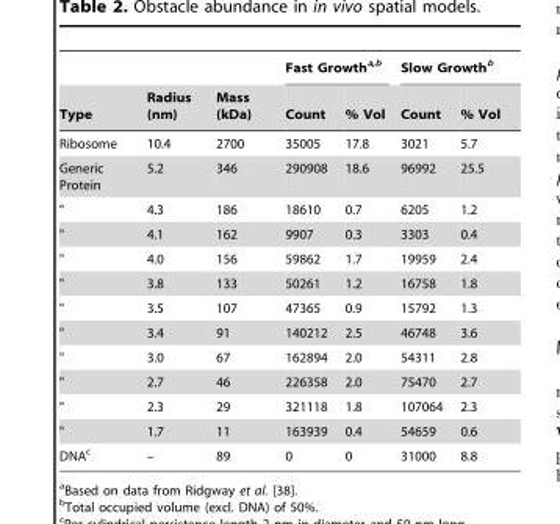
<table><thead><tr><td rowspan="2">Type</td><td rowspan="2">Radius (nm)</td><td rowspan="2">Mass (kDa)</td><td colspan="2">Fast Growth<sup>a,b</sup></td><td colspan="2">Slow Growth<sup>b</sup></td></tr><tr><td>Count</td><td>% Vol</td><td>Count</td><td>% Vol</td></tr></thead><tbody><tr><td>Ribosome</td><td>10.4</td><td>2700</td><td>35005</td><td>17.8</td><td>3021</td><td>5.7</td></tr><tr><td>Generic Protein</td><td>5.2</td><td>346</td><td>290908</td><td>18.6</td><td>96992</td><td>25.5</td></tr><tr><td>&quot;</td><td>4.3</td><td>186</td><td>18610</td><td>0.7</td><td>6205</td><td>1.2</td></tr><tr><td>&quot;</td><td>4.1</td><td>162</td><td>9907</td><td>0.3</td><td>3303</td><td>0.4</td></tr><tr><td>&quot;</td><td>4.0</td><td>156</td><td>59862</td><td>1.7</td><td>19959</td><td>2.4</td></tr><tr><td>&quot;</td><td>3.8</td><td>133</td><td>50261</td><td>1.2</td><td>16758</td><td>1.8</td></tr><tr><td>&quot;</td><td>3.5</td><td>107</td><td>47365</td><td>0.9</td><td>15792</td><td>1.3</td></tr><tr><td>&quot;</td><td>3.4</td><td>91</td><td>140212</td><td>2.5</td><td>46748</td><td>3.6</td></tr><tr><td>&quot;</td><td>3.0</td><td>67</td><td>162894</td><td>2.0</td><td>54311</td><td>2.8</td></tr><tr><td>&quot;</td><td>2.7</td><td>46</td><td>226358</td><td>2.0</td><td>75470</td><td>2.7</td></tr><tr><td>&quot;</td><td>2.3</td><td>29</td><td>321118</td><td>1.8</td><td>107064</td><td>2.3</td></tr><tr><td>&quot;</td><td>1.7</td><td>11</td><td>163939</td><td>0.4</td><td>54659</td><td>0.6</td></tr><tr><td>DNA<sup>c</sup></td><td>–</td><td>89</td><td>0</td><td>0</td><td>31000</td><td>8.8</td></tr></tbody></table>